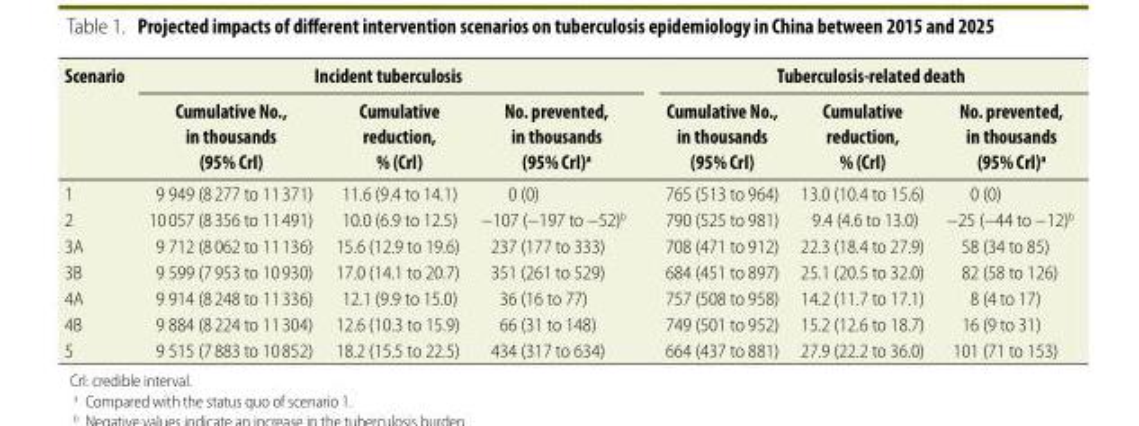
<table><thead><tr><td rowspan="2">Scenario</td><td colspan="3">Incident tuberculosis</td><td colspan="3">Tuberculosis-related death</td></tr><tr><td>Cumulative No., in thousands (95% CrI)</td><td>Cumulative reduction, % (CrI)</td><td>No. prevented, in thousands (95% CrI)<sup>a</sup></td><td>Cumulative No., in thousands (95% CrI)</td><td>Cumulative reduction, % (CrI)</td><td>No. prevented, in thousands (95% CrI)<sup>a</sup></td></tr></thead><tbody><tr><td>1</td><td>9 949 (8 277 to 11 371)</td><td>11.6 (9.4 to 14.1)</td><td>0 (0)</td><td>765 (513 to 964)</td><td>13.0 (10.4 to 15.6)</td><td>0 (0)</td></tr><tr><td>2</td><td>10 057 (8 356 to 11 491)</td><td>10.0 (6.9 to 12.5)</td><td>−107 (−197 to −52)<sup>b</sup></td><td>790 (525 to 981)</td><td>9.4 (4.6 to 13.0)</td><td>−25 (−44 to −12)<sup>b</sup></td></tr><tr><td>3A</td><td>9 712 (8 062 to 11 136)</td><td>15.6 (12.9 to 19.6)</td><td>237 (177 to 333)</td><td>708 (471 to 912)</td><td>22.3 (18.4 to 27.9)</td><td>58 (34 to 85)</td></tr><tr><td>3B</td><td>9 599 (7 953 to 10 930)</td><td>17.0 (14.1 to 20.7)</td><td>351 (261 to 529)</td><td>684 (451 to 897)</td><td>25.1 (20.5 to 32.0)</td><td>82 (58 to 126)</td></tr><tr><td>4A</td><td>9 914 (8 248 to 11 336)</td><td>12.1 (9.9 to 15.0)</td><td>36 (16 to 77)</td><td>757 (508 to 958)</td><td>14.2 (11.7 to 17.1)</td><td>8 (4 to 17)</td></tr><tr><td>4B</td><td>9 884 (8 224 to 11 304)</td><td>12.6 (10.3 to 15.9)</td><td>66 (31 to 148)</td><td>749 (501 to 952)</td><td>15.2 (12.6 to 18.7)</td><td>16 (9 to 31)</td></tr><tr><td>5</td><td>9 515 (7 883 to 10 852)</td><td>18.2 (15.5 to 22.5)</td><td>434 (317 to 634)</td><td>664 (437 to 881)</td><td>27.9 (22.2 to 36.0)</td><td>101 (71 to 153)</td></tr></tbody></table>